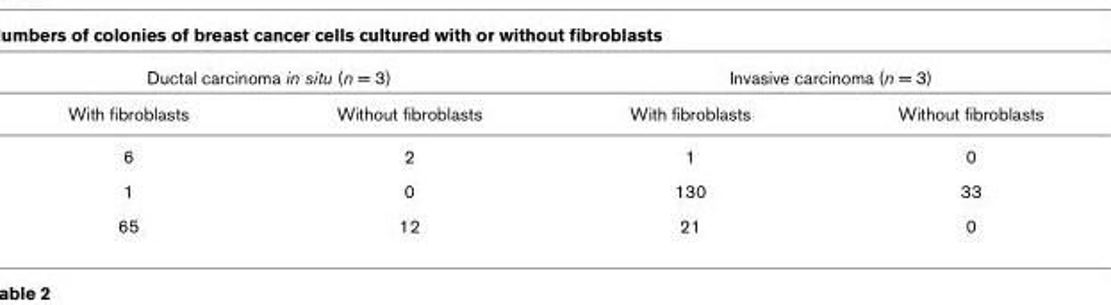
<table><thead><tr><td colspan="2">Ductal carcinoma in situ (n = 3)</td><td colspan="2">Invasive carcinoma (n = 3)</td></tr><tr><td>With fibroblasts</td><td>Without fibroblasts</td><td>With fibroblasts</td><td>Without fibroblasts</td></tr></thead><tbody><tr><td>6</td><td>2</td><td>1</td><td>0</td></tr><tr><td>1</td><td>0</td><td>130</td><td>33</td></tr><tr><td>65</td><td>12</td><td>21</td><td>0</td></tr></tbody></table>